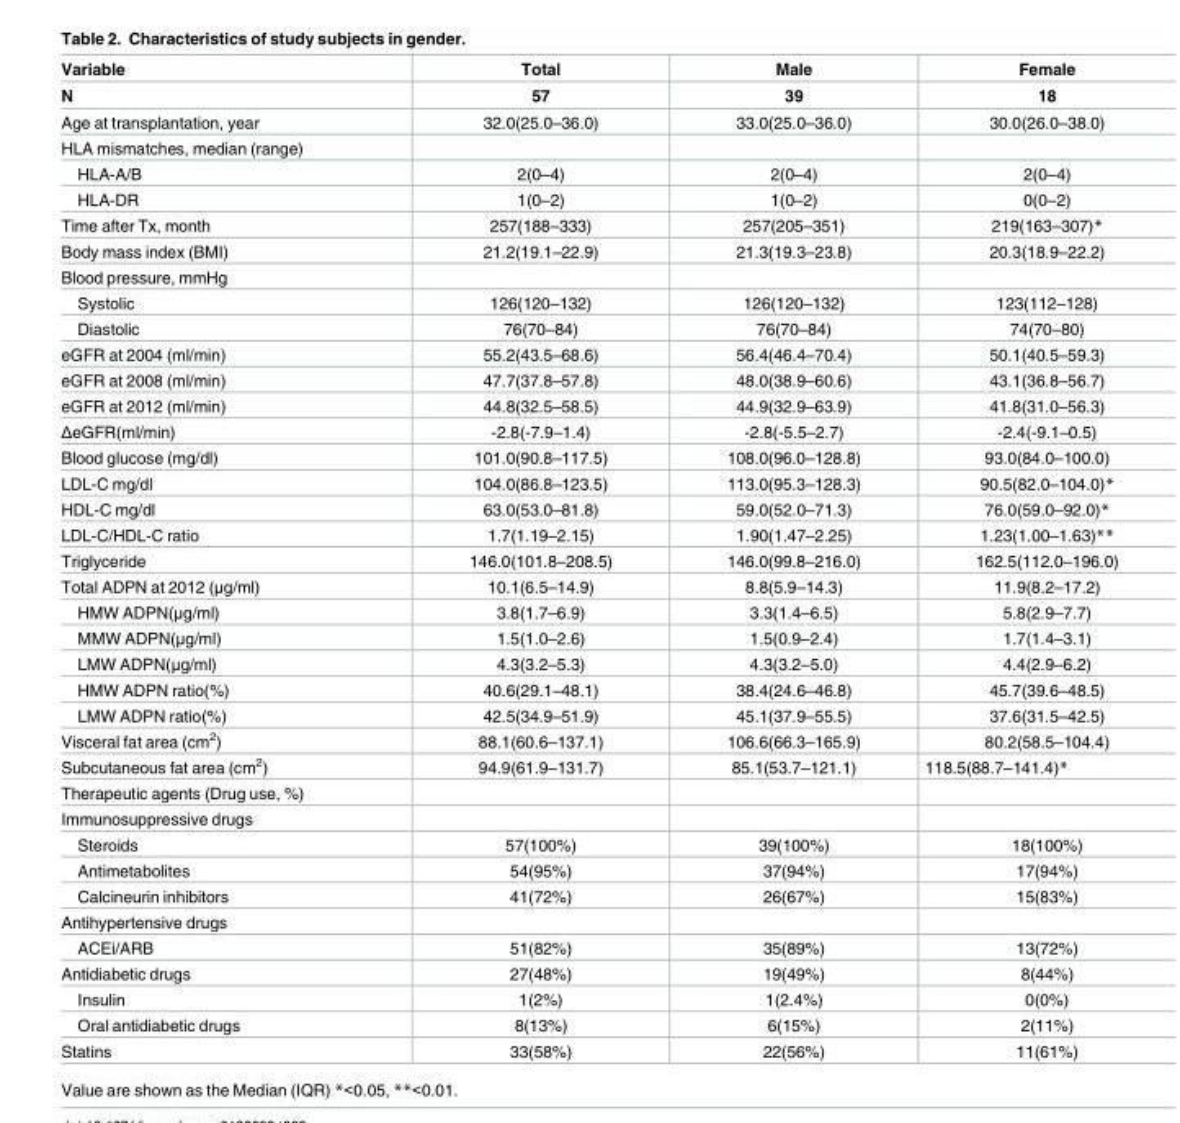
<table><thead><tr><td rowspan="2">Variable N</td><td rowspan="2">Total 57</td><td rowspan="2">Male 39</td><td rowspan="2">Female 18</td></tr><tr></tr></thead><tbody><tr><td>Age at transplantation, year</td><td>32.0(25.0–36.0)</td><td>33.0(25.0–36.0)</td><td>30.0(26.0–38.0)</td></tr><tr><td colspan="4">HLA mismatches, median (range)</td></tr><tr><td>HLA-A/B</td><td>2(0–4)</td><td>2(0–4)</td><td>2(0–4)</td></tr><tr><td>HLA-DR</td><td>1(0–2)</td><td>1(0–2)</td><td>0(0–2)</td></tr><tr><td>Time after Tx, month</td><td>257(188–333)</td><td>257(205–351)</td><td>219(163–307)*</td></tr><tr><td>Body mass index (BMI)</td><td>21.2(19.1–22.9)</td><td>21.3(19.3–23.8)</td><td>20.3(18.9–22.2)</td></tr><tr><td colspan="4">Blood pressure, mmHg</td></tr><tr><td>Systolic</td><td>126(120–132)</td><td>126(120–132)</td><td>123(112–128)</td></tr><tr><td>Diastolic</td><td>76(70–84)</td><td>76(70–84)</td><td>74(70–80)</td></tr><tr><td>eGFR at 2004 (ml/min)</td><td>55.2(43.5–68.6)</td><td>56.4(46.4–70.4)</td><td>50.1(40.5–59.3)</td></tr><tr><td>eGFR at 2008 (ml/min)</td><td>47.7(37.8–57.8)</td><td>48.0(38.9–60.6)</td><td>43.1(36.8–56.7)</td></tr><tr><td>eGFR at 2012 (ml/min)</td><td>44.8(32.5–58.5)</td><td>44.9(32.9–63.9)</td><td>41.8(31.0–56.3)</td></tr><tr><td>ΔeGFR(ml/min)</td><td>-2.8(-7.9–1.4)</td><td>-2.8(-5.5–2.7)</td><td>-2.4(-9.1–0.5)</td></tr><tr><td>Blood glucose (mg/dl)</td><td>101.0(90.8–117.5)</td><td>108.0(96.0–128.8)</td><td>93.0(84.0–100.0)</td></tr><tr><td>LDL-C mg/dl</td><td>104.0(86.8–123.5)</td><td>113.0(95.3–128.3)</td><td>90.5(82.0–104.0)*</td></tr><tr><td>HDL-C mg/dl</td><td>63.0(53.0–81.8)</td><td>59.0(52.0–71.3)</td><td>76.0(59.0–92.0)*</td></tr><tr><td>LDL-C/HDL-C ratio</td><td>1.7(1.19–2.15)</td><td>1.90(1.47–2.25)</td><td>1.23(1.00–1.63)**</td></tr><tr><td>Triglyceride</td><td>146.0(101.8–208.5)</td><td>146.0(99.8–216.0)</td><td>162.5(112.0–196.0)</td></tr><tr><td>Total ADPN at 2012 (μg/ml)</td><td>10.1(6.5–14.9)</td><td>8.8(5.9–14.3)</td><td>11.9(8.2–17.2)</td></tr><tr><td>HMW ADPN(μg/ml)</td><td>3.8(1.7–6.9)</td><td>3.3(1.4–6.5)</td><td>5.8(2.9–7.7)</td></tr><tr><td>MMW ADPN(μg/ml)</td><td>1.5(1.0–2.6)</td><td>1.5(0.9–2.4)</td><td>1.7(1.4–3.1)</td></tr><tr><td>LMW ADPN(μg/ml)</td><td>4.3(3.2–5.3)</td><td>4.3(3.2–5.0)</td><td>4.4(2.9–6.2)</td></tr><tr><td>HMW ADPN ratio(%)</td><td>40.6(29.1–48.1)</td><td>38.4(24.6–46.8)</td><td>45.7(39.6–48.5)</td></tr><tr><td>LMW ADPN ratio(%)</td><td>42.5(34.9–51.9)</td><td>45.1(37.9–55.5)</td><td>37.6(31.5–42.5)</td></tr><tr><td>Visceral fat area (cm<sup>2</sup>)</td><td>88.1(60.6–137.1)</td><td>106.6(66.3–165.9)</td><td>80.2(58.5–104.4)</td></tr><tr><td>Subcutaneous fat area (cm<sup>2</sup>)</td><td>94.9(61.9–131.7)</td><td>85.1(53.7–121.1)</td><td>118.5(88.7–141.4)*</td></tr><tr><td colspan="4">Therapeutic agents (Drug use, %)</td></tr><tr><td colspan="4">Immunosuppressive drugs</td></tr><tr><td>Steroids</td><td>57(100%)</td><td>39(100%)</td><td>18(100%)</td></tr><tr><td>Antimetabolites</td><td>54(95%)</td><td>37(94%)</td><td>17(94%)</td></tr><tr><td>Calcineurin inhibitors</td><td>41(72%)</td><td>26(67%)</td><td>15(83%)</td></tr><tr><td colspan="4">Antihypertensive drugs</td></tr><tr><td>ACEi/ARB</td><td>51(82%)</td><td>35(89%)</td><td>13(72%)</td></tr><tr><td>Antidiabetic drugs</td><td>27(48%)</td><td>19(49%)</td><td>8(44%)</td></tr><tr><td>Insulin</td><td>1(2%)</td><td>1(2.4%)</td><td>0(0%)</td></tr><tr><td>Oral antidiabetic drugs</td><td>8(13%)</td><td>6(15%)</td><td>2(11%)</td></tr><tr><td>Statins</td><td>33(58%)</td><td>22(56%)</td><td>11(61%)</td></tr></tbody></table>